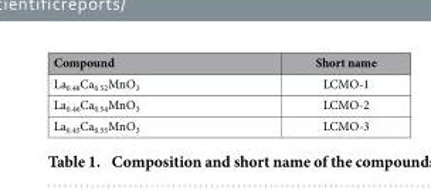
<table><thead><tr><td>Compound</td><td>Short name</td></tr></thead><tbody><tr><td>La<sub>0.48</sub>Ca<sub>0.52</sub>MnO<sub>3</sub></td><td>LCMO-1</td></tr><tr><td>La<sub>0.46</sub>Ca<sub>0.54</sub>MnO<sub>3</sub></td><td>LCMO-2</td></tr><tr><td>La<sub>0.45</sub>Ca<sub>0.55</sub>MnO<sub>3</sub></td><td>LCMO-3</td></tr></tbody></table>